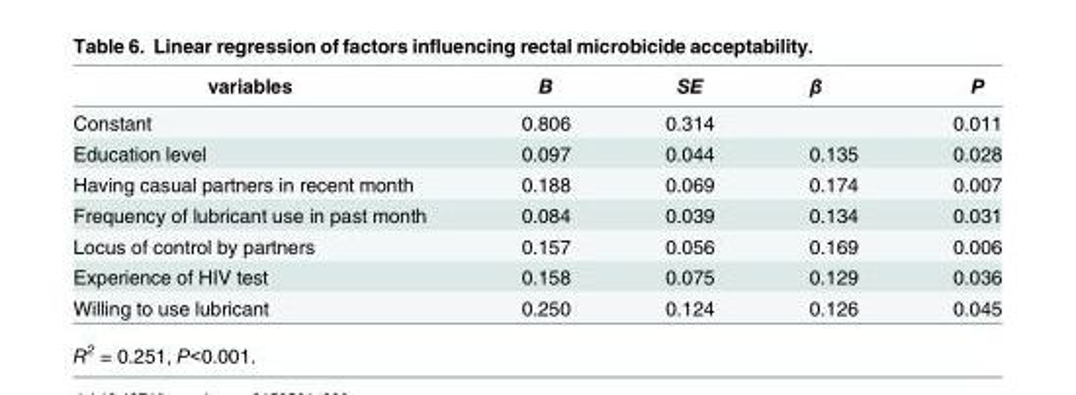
<table><thead><tr><td>variables</td><td>B</td><td>SE</td><td>β</td><td>P</td></tr></thead><tbody><tr><td>Constant</td><td>0.806</td><td>0.314</td><td></td><td>0.011</td></tr><tr><td>Education level</td><td>0.097</td><td>0.044</td><td>0.135</td><td>0.028</td></tr><tr><td>Having casual partners in recent month</td><td>0.188</td><td>0.069</td><td>0.174</td><td>0.007</td></tr><tr><td>Frequency of lubricant use in past month</td><td>0.084</td><td>0.039</td><td>0.134</td><td>0.031</td></tr><tr><td>Locus of control by partners</td><td>0.157</td><td>0.056</td><td>0.169</td><td>0.006</td></tr><tr><td>Experience of HIV test</td><td>0.158</td><td>0.075</td><td>0.129</td><td>0.036</td></tr><tr><td>Willing to use lubricant</td><td>0.250</td><td>0.124</td><td>0.126</td><td>0.045</td></tr></tbody></table>